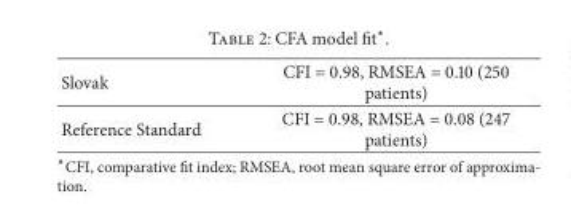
<table><tbody><tr><td>Slovak</td><td>CFI = 0.98, RMSEA = 0.10 (250 patients)</td></tr><tr><td>Reference Standard</td><td>CFI = 0.98, RMSEA = 0.08 (247 patients)</td></tr></tbody></table>